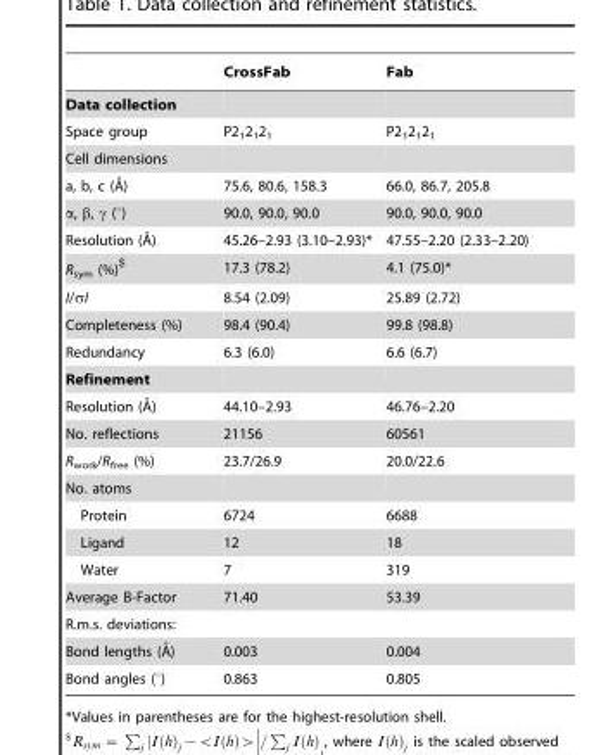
<table><thead><tr><td></td><td>CrossFab</td><td>Fab</td></tr></thead><tbody><tr><td colspan="3">Data collection</td></tr><tr><td>Space group</td><td>P2<sub>1</sub>2<sub>1</sub>2<sub>1</sub></td><td>P2<sub>1</sub>2<sub>1</sub>2<sub>1</sub></td></tr><tr><td colspan="3">Cell dimensions</td></tr><tr><td>a, b, c (A˚)</td><td>75.6, 80.6, 158.3</td><td>66.0, 86.7, 205.8</td></tr><tr><td>α, β, γ (°)</td><td>90.0, 90.0, 90.0</td><td>90.0, 90.0, 90.0</td></tr><tr><td>Resolution (A˚)</td><td>45.26–2.93 (3.10–2.93)*</td><td>47.55–2.20 (2.33–2.20)</td></tr><tr><td>R<sub>sym</sub> (%)<sup>$</sup></td><td>17.3 (78.2)</td><td>4.1 (75.0)*</td></tr><tr><td>I/σI</td><td>8.54 (2.09)</td><td>25.89 (2.72)</td></tr><tr><td>Completeness (%)</td><td>98.4 (90.4)</td><td>99.8 (98.8)</td></tr><tr><td>Redundancy</td><td>6.3 (6.0)</td><td>6.6 (6.7)</td></tr><tr><td colspan="3">Refinement</td></tr><tr><td>Resolution (A˚)</td><td>44.10–2.93</td><td>46.76–2.20</td></tr><tr><td>No. reflections</td><td>21156</td><td>60561</td></tr><tr><td>R<sub>work</sub>/R<sub>free</sub> (%)</td><td>23.7/26.9</td><td>20.0/22.6</td></tr><tr><td colspan="3">No. atoms</td></tr><tr><td>Protein</td><td>6724</td><td>6688</td></tr><tr><td>Ligand</td><td>12</td><td>18</td></tr><tr><td>Water</td><td>7</td><td>319</td></tr><tr><td>Average B-Factor</td><td>71.40</td><td>53.39</td></tr><tr><td colspan="3">R.m.s. deviations:</td></tr><tr><td>Bond lengths (A˚)</td><td>0.003</td><td>0.004</td></tr><tr><td>Bond angles (°)</td><td>0.863</td><td>0.805</td></tr></tbody></table>